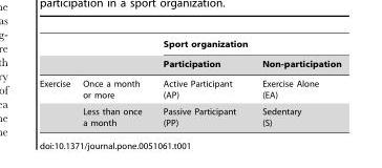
<table><thead><tr><td rowspan="2"></td><td rowspan="2"></td><td colspan="2">Sport organization</td></tr><tr><td>Participation</td><td>Non-participation</td></tr></thead><tbody><tr><td rowspan="2">Exercise</td><td>Once a month or more</td><td>Active Participant (AP)</td><td>Exercise Alone (EA)</td></tr><tr><td>Less than once a month</td><td>Passive Participant (PP)</td><td>Sedentary (S)</td></tr></tbody></table>